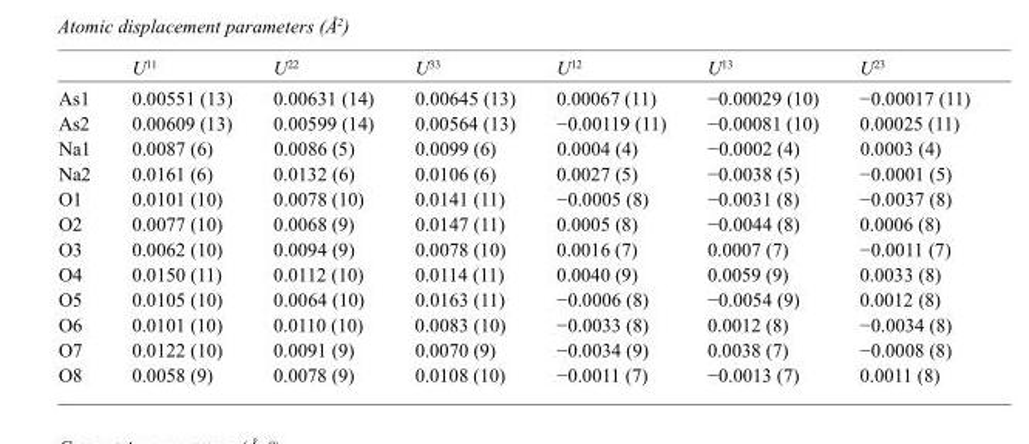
<table><thead><tr><td></td><td>U<sup>11</sup></td><td>U<sup>22</sup></td><td>U<sup>33</sup></td><td>U<sup>12</sup></td><td>U<sup>13</sup></td><td>U<sup>23</sup></td></tr></thead><tbody><tr><td>As1</td><td>0.00551 (13)</td><td>0.00631 (14)</td><td>0.00645 (13)</td><td>0.00067 (11)</td><td>−0.00029 (10)</td><td>−0.00017 (11)</td></tr><tr><td>As2</td><td>0.00609 (13)</td><td>0.00599 (14)</td><td>0.00564 (13)</td><td>−0.00119 (11)</td><td>−0.00081 (10)</td><td>0.00025 (11)</td></tr><tr><td>Na1</td><td>0.0087 (6)</td><td>0.0086 (5)</td><td>0.0099 (6)</td><td>0.0004 (4)</td><td>−0.0002 (4)</td><td>0.0003 (4)</td></tr><tr><td>Na2</td><td>0.0161 (6)</td><td>0.0132 (6)</td><td>0.0106 (6)</td><td>0.0027 (5)</td><td>−0.0038 (5)</td><td>−0.0001 (5)</td></tr><tr><td>O1</td><td>0.0101 (10)</td><td>0.0078 (10)</td><td>0.0141 (11)</td><td>−0.0005 (8)</td><td>−0.0031 (8)</td><td>−0.0037 (8)</td></tr><tr><td>O2</td><td>0.0077 (10)</td><td>0.0068 (9)</td><td>0.0147 (11)</td><td>0.0005 (8)</td><td>−0.0044 (8)</td><td>0.0006 (8)</td></tr><tr><td>O3</td><td>0.0062 (10)</td><td>0.0094 (9)</td><td>0.0078 (10)</td><td>0.0016 (7)</td><td>0.0007 (7)</td><td>−0.0011 (7)</td></tr><tr><td>O4</td><td>0.0150 (11)</td><td>0.0112 (10)</td><td>0.0114 (11)</td><td>0.0040 (9)</td><td>0.0059 (9)</td><td>0.0033 (8)</td></tr><tr><td>O5</td><td>0.0105 (10)</td><td>0.0064 (10)</td><td>0.0163 (11)</td><td>−0.0006 (8)</td><td>−0.0054 (9)</td><td>0.0012 (8)</td></tr><tr><td>O6</td><td>0.0101 (10)</td><td>0.0110 (10)</td><td>0.0083 (10)</td><td>−0.0033 (8)</td><td>0.0012 (8)</td><td>−0.0034 (8)</td></tr><tr><td>O7</td><td>0.0122 (10)</td><td>0.0091 (9)</td><td>0.0070 (9)</td><td>−0.0034 (9)</td><td>0.0038 (7)</td><td>−0.0008 (8)</td></tr><tr><td>O8</td><td>0.0058 (9)</td><td>0.0078 (9)</td><td>0.0108 (10)</td><td>−0.0011 (7)</td><td>−0.0013 (7)</td><td>0.0011 (8)</td></tr></tbody></table>